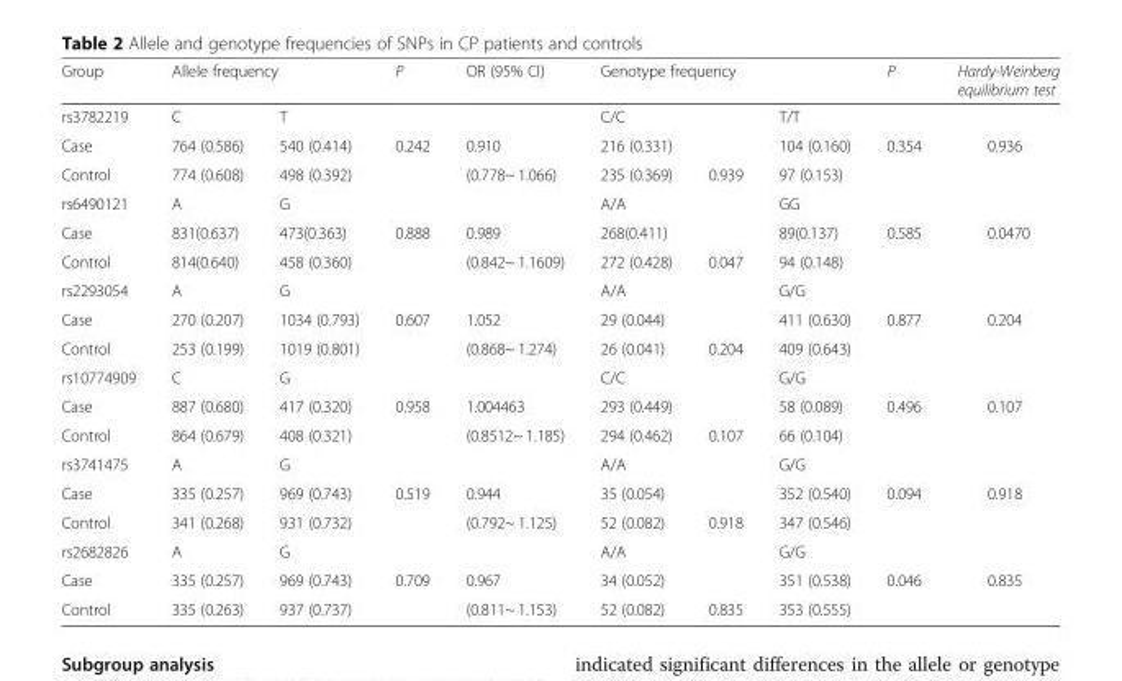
<table><thead><tr><td rowspan="2">Group rs3782219</td><td colspan="2">Allele frequency</td><td rowspan="2">P</td><td rowspan="2">OR (95% CI)</td><td colspan="3">Genotype frequency</td><td rowspan="2">P</td><td rowspan="2">Hardy-Weinberg equilibrium test</td></tr><tr><td>C</td><td>T</td><td>C/C</td><td></td><td>T/T</td></tr></thead><tbody><tr><td>Case</td><td>764 (0.586)</td><td>540 (0.414)</td><td rowspan="2">0.242</td><td>0.910</td><td>216 (0.331)</td><td></td><td>104 (0.160)</td><td>0.354</td><td rowspan="2">0.936</td></tr><tr><td>Control</td><td>774 (0.608)</td><td>498 (0.392)</td><td>(0.778~ 1.066)</td><td>235 (0.369)</td><td>0.939</td><td>97 (0.153)</td><td></td></tr><tr><td>rs6490121</td><td>A</td><td>G</td><td></td><td></td><td>A/A</td><td></td><td>GG</td><td></td><td></td></tr><tr><td>Case</td><td>831(0.637)</td><td>473(0.363)</td><td rowspan="2">0.888</td><td>0.989</td><td>268(0.411)</td><td></td><td>89(0.137)</td><td>0.585</td><td rowspan="2">0.0470</td></tr><tr><td>Control</td><td>814(0.640)</td><td>458 (0.360)</td><td>(0.842~ 1.1609)</td><td>272 (0.428)</td><td>0.047</td><td>94 (0.148)</td><td></td></tr><tr><td>rs2293054</td><td>A</td><td>G</td><td></td><td></td><td>A/A</td><td></td><td>G/G</td><td></td><td></td></tr><tr><td>Case</td><td>270 (0.207)</td><td>1034 (0.793)</td><td rowspan="2">0.607</td><td>1.052</td><td>29 (0.044)</td><td></td><td>411 (0.630)</td><td>0.877</td><td rowspan="2">0.204</td></tr><tr><td>Control</td><td>253 (0.199)</td><td>1019 (0.801)</td><td>(0.868~ 1.274)</td><td>26 (0.041)</td><td>0.204</td><td>409 (0.643)</td><td></td></tr><tr><td>rs10774909</td><td>C</td><td>G</td><td></td><td></td><td>C/C</td><td></td><td>G/G</td><td></td><td></td></tr><tr><td>Case</td><td>887 (0.680)</td><td>417 (0.320)</td><td rowspan="2">0.958</td><td>1.004463</td><td>293 (0.449)</td><td></td><td>58 (0.089)</td><td>0.496</td><td rowspan="2">0.107</td></tr><tr><td>Control</td><td>864 (0.679)</td><td>408 (0.321)</td><td>(0.8512~ 1.185)</td><td>294 (0.462)</td><td>0.107</td><td>66 (0.104)</td><td></td></tr><tr><td>rs3741475</td><td>A</td><td>G</td><td></td><td></td><td>A/A</td><td></td><td>G/G</td><td></td><td></td></tr><tr><td>Case</td><td>335 (0.257)</td><td>969 (0.743)</td><td rowspan="2">0.519</td><td>0.944</td><td>35 (0.054)</td><td></td><td>352 (0.540)</td><td>0.094</td><td rowspan="2">0.918</td></tr><tr><td>Control</td><td>341 (0.268)</td><td>931 (0.732)</td><td>(0.792~ 1.125)</td><td>52 (0.082)</td><td>0.918</td><td>347 (0.546)</td><td></td></tr><tr><td>rs2682826</td><td>A</td><td>G</td><td></td><td></td><td>A/A</td><td></td><td>G/G</td><td></td><td></td></tr><tr><td>Case</td><td>335 (0.257)</td><td>969 (0.743)</td><td rowspan="2">0.709</td><td>0.967</td><td>34 (0.052)</td><td></td><td>351 (0.538)</td><td>0.046</td><td rowspan="2">0.835</td></tr><tr><td>Control</td><td>335 (0.263)</td><td>937 (0.737)</td><td>(0.811~ 1.153)</td><td>52 (0.082)</td><td>0.835</td><td>353 (0.555)</td><td></td></tr></tbody></table>